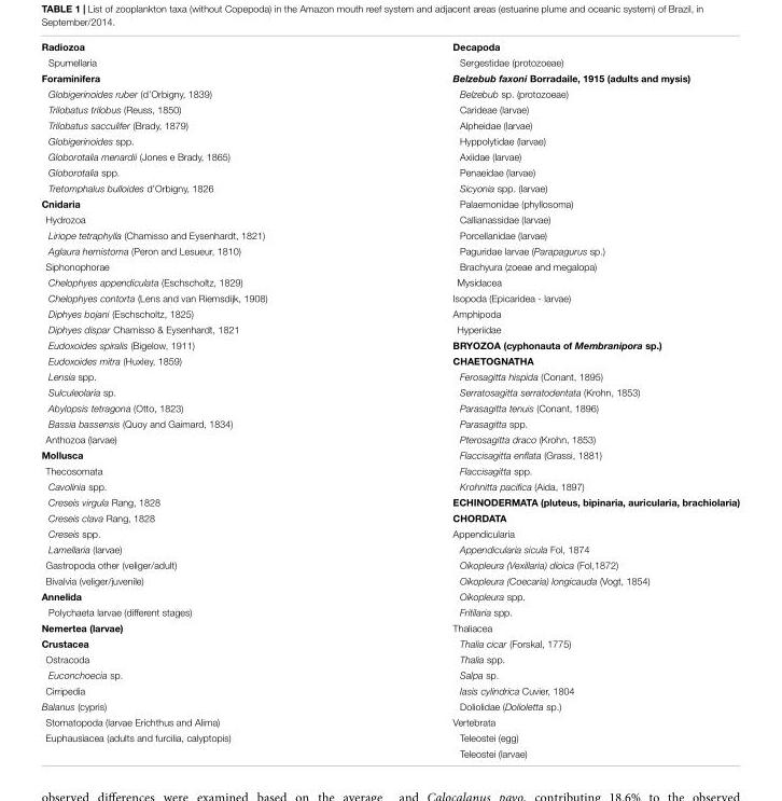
<table><tbody><tr><td>Radiozoa</td><td>Decapoda</td></tr><tr><td>Spumellaria</td><td>Sergestidae (protozoeae)</td></tr><tr><td>Foraminifera</td><td>Belzebub faxoni Borradaile, 1915 (adults and mysis)</td></tr><tr><td>Globigerinoides ruber (d’Orbigny, 1839)</td><td>Belzebub sp. (protozoeae)</td></tr><tr><td>Trilobatus trilobus (Reuss, 1850)</td><td>Carideae (larvae)</td></tr><tr><td>Trilobatus sacculifer (Brady, 1879)</td><td>Alpheidae (larvae)</td></tr><tr><td>Globigerinoides spp.</td><td>Hyppolytidae (larvae)</td></tr><tr><td>Globorotalia menardii (Jones e Brady, 1865)</td><td>Axiidae (larvae)</td></tr><tr><td>Globorotalia spp.</td><td>Penaeidae (larvae)</td></tr><tr><td>Tretomphalus bulloides d’Orbigny, 1826</td><td>Sicyonia spp. (larvae)</td></tr><tr><td>Cnidaria</td><td>Palaemonidae (phyllosoma)</td></tr><tr><td>Hydrozoa</td><td>Callianassidae (larvae)</td></tr><tr><td>Liriope tetraphylla (Chamisso and Eysenhardt, 1821)</td><td>Porcellanidae (larvae)</td></tr><tr><td>Aglaura hemistoma (Peron and Lesueur, 1810)</td><td>Paguridae larvae (Parapagurus sp.)</td></tr><tr><td>Siphonophorae</td><td>Brachyura (zoeae and megalopa)</td></tr><tr><td>Chelophyes appendiculata (Eschscholtz, 1829)</td><td>Mysidacea</td></tr><tr><td>Chelophyes contorta (Lens and van Riemsdijk, 1908)</td><td>Isopoda (Epicaridea - larvae)</td></tr><tr><td>Diphyes bojani (Eschscholtz, 1825)</td><td>Amphipoda</td></tr><tr><td>Diphyes dispar Chamisso &amp; Eysenhardt, 1821</td><td>Hyperiidae</td></tr><tr><td>Eudoxoides spiralis (Bigelow, 1911)</td><td>BRYOZOA (cyphonauta of Membranipora sp.)</td></tr><tr><td>Eudoxoides mitra (Huxley, 1859)</td><td>CHAETOGNATHA</td></tr><tr><td>Lensia spp.</td><td>Ferosagitta hispida (Conant, 1895)</td></tr><tr><td>Sulculeolaria sp.</td><td>Serratosagitta serratodentata (Krohn, 1853)</td></tr><tr><td>Abylopsis tetragona (Otto, 1823)</td><td>Parasagitta tenuis (Conant, 1896)</td></tr><tr><td>Bassia bassensis (Quoy and Gaimard, 1834)</td><td>Parasagitta spp.</td></tr><tr><td>Anthozoa (larvae)</td><td>Pterosagitta draco (Krohn, 1853)</td></tr><tr><td>Mollusca</td><td>Flaccisagitta enflata (Grassi, 1881)</td></tr><tr><td>Thecosomata</td><td>Flaccisagitta spp.</td></tr><tr><td>Cavolinia spp.</td><td>Krohnitta pacifica (Aida, 1897)</td></tr><tr><td>Creseis virgula Rang, 1828</td><td>ECHINODERMATA (pluteus, bipinaria, auricularia, brachiolaria)</td></tr><tr><td>Creseis clava Rang, 1828</td><td>CHORDATA</td></tr><tr><td>Creseis spp.</td><td>Appendicularia</td></tr><tr><td>Lamellaria (larvae)</td><td>Appendicularia sicula Fol, 1874</td></tr><tr><td>Gastropoda other (veliger/adult)</td><td>Oikopleura (Vexillaria) dioica (Fol,1872)</td></tr><tr><td>Bivalvia (veliger/juvenile)</td><td>Oikopleura (Coecaria) longicauda (Vogt, 1854)</td></tr><tr><td>Annelida</td><td>Oikopleura spp.</td></tr><tr><td>Polychaeta larvae (different stages)</td><td>Fritilaria spp.</td></tr><tr><td>Nemertea (larvae)</td><td>Thaliacea</td></tr><tr><td>Crustacea</td><td>Thalia cicar (Forskal, 1775)</td></tr><tr><td>Ostracoda</td><td>Thalia spp.</td></tr><tr><td>Euconchoecia sp.</td><td>Salpa sp.</td></tr><tr><td>Cirripedia</td><td>Iasis cylindrica Cuvier, 1804</td></tr><tr><td>Balanus (cypris)</td><td>Doliolidae (Dolioletta sp.)</td></tr><tr><td>Stomatopoda (larvae Erichthus and Alima)</td><td>Vertebrata</td></tr><tr><td rowspan="2">Euphausiacea (adults and furcilia, calyptopis)</td><td>Teleostei (egg)</td></tr><tr><td>Teleostei (larvae)</td></tr></tbody></table>